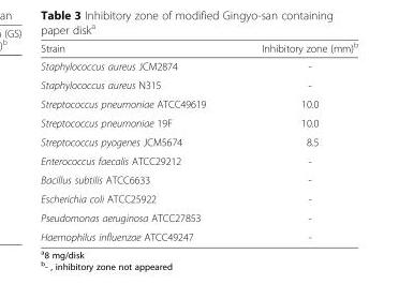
<table><thead><tr><td>Strain</td><td>Inhibitory zone (mm)<sup>b</sup></td></tr></thead><tbody><tr><td>Staphylococcus aureus JCM2874</td><td>-</td></tr><tr><td>Staphylococcus aureus N315</td><td>-</td></tr><tr><td>Streptococcus pneumoniae ATCC49619</td><td>10.0</td></tr><tr><td>Streptococcus pneumoniae 19F</td><td>10.0</td></tr><tr><td>Streptococcus pyogenes JCM5674</td><td>8.5</td></tr><tr><td>Enterococcus faecalis ATCC29212</td><td>-</td></tr><tr><td>Bacillus subtilis ATCC6633</td><td>-</td></tr><tr><td>Escherichia coli ATCC25922</td><td>-</td></tr><tr><td>Pseudomonas aeruginosa ATCC27853</td><td>-</td></tr><tr><td>Haemophilus influenzae ATCC49247</td><td>-</td></tr></tbody></table>